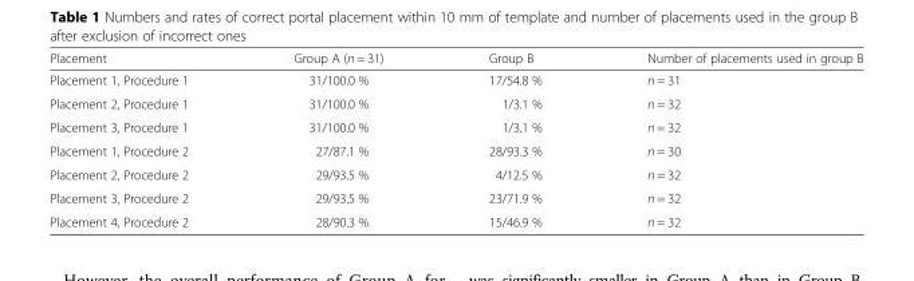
<table><thead><tr><td>Placement</td><td>Group A (n = 31)</td><td>Group B</td><td>Number of placements used in group B</td></tr></thead><tbody><tr><td>Placement 1, Procedure 1</td><td>31/100.0 %</td><td>17/54.8 %</td><td>n = 31</td></tr><tr><td>Placement 2, Procedure 1</td><td>31/100.0 %</td><td>1/3.1 %</td><td>n = 32</td></tr><tr><td>Placement 3, Procedure 1</td><td>31/100.0 %</td><td>1/3.1 %</td><td>n = 32</td></tr><tr><td>Placement 1, Procedure 2</td><td>27/87.1 %</td><td>28/93.3 %</td><td>n = 30</td></tr><tr><td>Placement 2, Procedure 2</td><td>29/93.5 %</td><td>4/12.5 %</td><td>n = 32</td></tr><tr><td>Placement 3, Procedure 2</td><td>29/93.5 %</td><td>23/71.9 %</td><td>n = 32</td></tr><tr><td>Placement 4, Procedure 2</td><td>28/90.3 %</td><td>15/46.9 %</td><td>n = 32</td></tr></tbody></table>